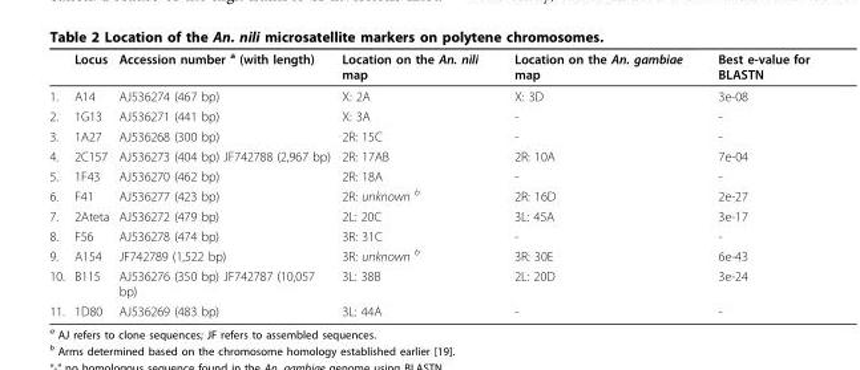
<table><thead><tr><td></td><td>Locus</td><td>Accession number <sup>a</sup> (with length)</td><td>Location on the An. nili map</td><td>Location on the An. gambiae map</td><td>Best e-value for BLASTN</td></tr></thead><tbody><tr><td>1.</td><td>A14</td><td>AJ536274 (467 bp)</td><td>X: 2A</td><td>X: 3D</td><td>3e-08</td></tr><tr><td>2.</td><td>1G13</td><td>AJ536271 (441 bp)</td><td>X: 3A</td><td>-</td><td>-</td></tr><tr><td>3.</td><td>1A27</td><td>AJ536268 (300 bp)</td><td>2R: 15C</td><td>-</td><td>-</td></tr><tr><td>4.</td><td>2C157</td><td>AJ536273 (404 bp) JF742788 (2,967 bp)</td><td>2R: 17AB</td><td>2R: 10A</td><td>7e-04</td></tr><tr><td>5.</td><td>1F43</td><td>AJ536270 (462 bp)</td><td>2R: 18A</td><td>-</td><td>-</td></tr><tr><td>6.</td><td>F41</td><td>AJ536277 (423 bp)</td><td>2R: unknown <sup>b</sup></td><td>2R: 16D</td><td>2e-27</td></tr><tr><td>7.</td><td>2Ateta</td><td>AJ536272 (479 bp)</td><td>2L: 20C</td><td>3L: 45A</td><td>3e-17</td></tr><tr><td>8.</td><td>F56</td><td>AJ536278 (474 bp)</td><td>3R: 31C</td><td>-</td><td>-</td></tr><tr><td>9.</td><td>A154</td><td>JF742789 (1,522 bp)</td><td>3R: unknown <sup>b</sup></td><td>3R: 30E</td><td>6e-43</td></tr><tr><td>10.</td><td>B115</td><td>AJ536276 (350 bp) JF742787 (10,057 bp)</td><td>3L: 38B</td><td>2L: 20D</td><td>3e-24</td></tr><tr><td>11.</td><td>1D80</td><td>AJ536269 (483 bp)</td><td>3L: 44A</td><td>-</td><td>-</td></tr></tbody></table>